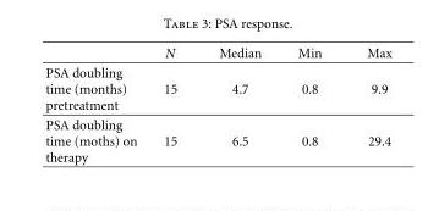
<table><thead><tr><td></td><td>N</td><td>Median</td><td>Min</td><td>Max</td></tr></thead><tbody><tr><td>PSA doubling time (months) pretreatment</td><td>15</td><td>4.7</td><td>0.8</td><td>9.9</td></tr><tr><td>PSA doubling time (moths) on therapy</td><td>15</td><td>6.5</td><td>0.8</td><td>29.4</td></tr></tbody></table>